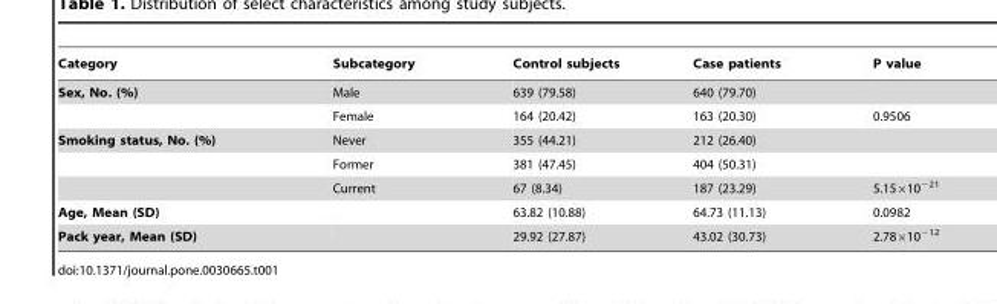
<table><thead><tr><td>Category</td><td>Subcategory</td><td>Control subjects</td><td>Case patients</td><td>P value</td></tr></thead><tbody><tr><td rowspan="2">Sex, No. (%)</td><td>Male</td><td>639 (79.58)</td><td>640 (79.70)</td><td></td></tr><tr><td>Female</td><td>164 (20.42)</td><td>163 (20.30)</td><td>0.9506</td></tr><tr><td rowspan="3">Smoking status, No. (%)</td><td>Never</td><td>355 (44.21)</td><td>212 (26.40)</td><td></td></tr><tr><td>Former</td><td>381 (47.45)</td><td>404 (50.31)</td><td></td></tr><tr><td>Current</td><td>67 (8.34)</td><td>187 (23.29)</td><td>5.15×10<sup>−21</sup></td></tr><tr><td>Age, Mean (SD)</td><td></td><td>63.82 (10.88)</td><td>64.73 (11.13)</td><td>0.0982</td></tr><tr><td>Pack year, Mean (SD)</td><td></td><td>29.92 (27.87)</td><td>43.02 (30.73)</td><td>2.78×10<sup>−12</sup></td></tr></tbody></table>